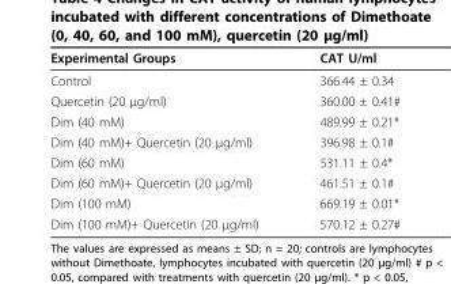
<table><thead><tr><td>Experimental Groups</td><td>CAT U/ml</td></tr></thead><tbody><tr><td>Control</td><td>366.44 ± 0.34</td></tr><tr><td>Quercetin (20 μg/ml)</td><td>360.00 ± 0.41#</td></tr><tr><td>Dim (40 mM)</td><td>489.99 ± 0.21*</td></tr><tr><td>Dim (40 mM)+ Quercetin (20 μg/ml)</td><td>396.98 ± 0.1#</td></tr><tr><td>Dim (60 mM)</td><td>531.11 ± 0.4*</td></tr><tr><td>Dim (60 mM)+ Quercetin (20 μg/ml)</td><td>461.51 ± 0.1#</td></tr><tr><td>Dim (100 mM)</td><td>669.19 ± 0.01*</td></tr><tr><td>Dim (100 mM)+ Quercetin (20 μg/ml)</td><td>570.12 ± 0.27#</td></tr></tbody></table>